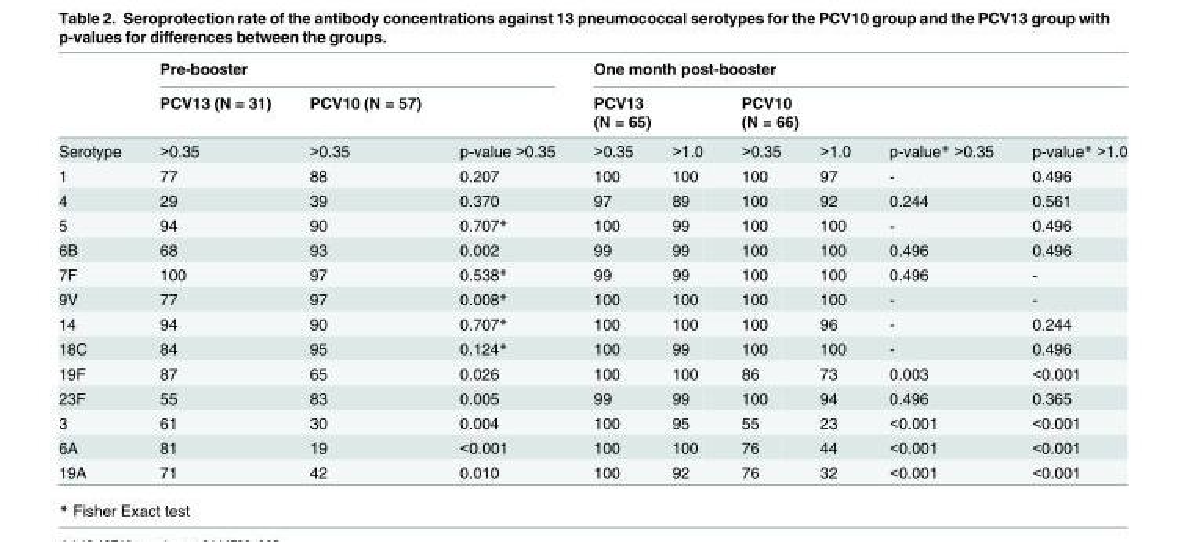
<table><thead><tr><td rowspan="3">Serotype</td><td colspan="3">Pre-booster</td><td colspan="6">One month post-booster</td></tr><tr><td rowspan="2">PCV13 (N = 31) &gt;0.35</td><td rowspan="2">PCV10 (N = 57) &gt;0.35</td><td rowspan="2">p-value &gt;0.35</td><td colspan="2">PCV13 (N = 65)</td><td colspan="2">PCV10 (N = 66)</td><td rowspan="2">p-value* &gt;0.35</td><td rowspan="2">p-value* &gt;1.0</td></tr><tr><td>&gt;0.35</td><td>&gt;1.0</td><td>&gt;0.35</td><td>&gt;1.0</td></tr></thead><tbody><tr><td>1</td><td>77</td><td>88</td><td>0.207</td><td>100</td><td>100</td><td>100</td><td>97</td><td>-</td><td>0.496</td></tr><tr><td>4</td><td>29</td><td>39</td><td>0.370</td><td>97</td><td>89</td><td>100</td><td>92</td><td>0.244</td><td>0.561</td></tr><tr><td>5</td><td>94</td><td>90</td><td>0.707*</td><td>100</td><td>99</td><td>100</td><td>100</td><td>-</td><td>0.496</td></tr><tr><td>6B</td><td>68</td><td>93</td><td>0.002</td><td>99</td><td>99</td><td>100</td><td>100</td><td>0.496</td><td>0.496</td></tr><tr><td>7F</td><td>100</td><td>97</td><td>0.538*</td><td>99</td><td>99</td><td>100</td><td>100</td><td>0.496</td><td>-</td></tr><tr><td>9V</td><td>77</td><td>97</td><td>0.008*</td><td>100</td><td>100</td><td>100</td><td>100</td><td>-</td><td>-</td></tr><tr><td>14</td><td>94</td><td>90</td><td>0.707*</td><td>100</td><td>100</td><td>100</td><td>96</td><td>-</td><td>0.244</td></tr><tr><td>18C</td><td>84</td><td>95</td><td>0.124*</td><td>100</td><td>99</td><td>100</td><td>100</td><td>-</td><td>0.496</td></tr><tr><td>19F</td><td>87</td><td>65</td><td>0.026</td><td>100</td><td>100</td><td>86</td><td>73</td><td>0.003</td><td>&lt;0.001</td></tr><tr><td>23F</td><td>55</td><td>83</td><td>0.005</td><td>99</td><td>99</td><td>100</td><td>94</td><td>0.496</td><td>0.365</td></tr><tr><td>3</td><td>61</td><td>30</td><td>0.004</td><td>100</td><td>95</td><td>55</td><td>23</td><td>&lt;0.001</td><td>&lt;0.001</td></tr><tr><td>6A</td><td>81</td><td>19</td><td>&lt;0.001</td><td>100</td><td>100</td><td>76</td><td>44</td><td>&lt;0.001</td><td>&lt;0.001</td></tr><tr><td>19A</td><td>71</td><td>42</td><td>0.010</td><td>100</td><td>92</td><td>76</td><td>32</td><td>&lt;0.001</td><td>&lt;0.001</td></tr></tbody></table>